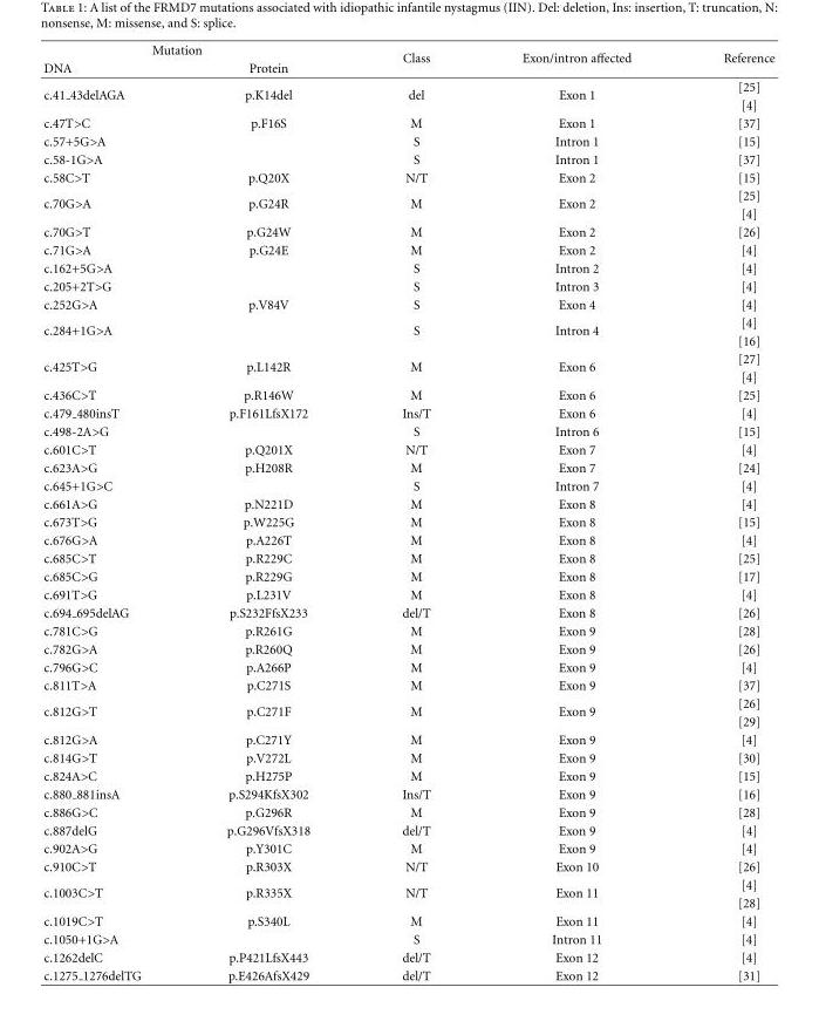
<table><thead><tr><td colspan="2">Mutation</td><td rowspan="2">Class</td><td rowspan="2">Exon/intron affected</td><td rowspan="2">Reference</td></tr><tr><td>DNA</td><td>Protein</td></tr></thead><tbody><tr><td rowspan="2">c.41 43delAGA</td><td rowspan="2">p.K14del</td><td rowspan="2">del</td><td rowspan="2">Exon 1</td><td>[25]</td></tr><tr><td>[4]</td></tr><tr><td>c.47T&gt;C</td><td>p.F16S</td><td>M</td><td>Exon 1</td><td>[37]</td></tr><tr><td>c.57+5G&gt;A</td><td></td><td>S</td><td>Intron 1</td><td>[15]</td></tr><tr><td>c.58-1G&gt;A</td><td></td><td>S</td><td>Intron 1</td><td>[37]</td></tr><tr><td>c.58C&gt;T</td><td>p.Q20X</td><td>N/T</td><td>Exon 2</td><td>[15]</td></tr><tr><td rowspan="2">c.70G&gt;A</td><td rowspan="2">p.G24R</td><td rowspan="2">M</td><td rowspan="2">Exon 2</td><td>[25]</td></tr><tr><td>[4]</td></tr><tr><td>c.70G&gt;T</td><td>p.G24W</td><td>M</td><td>Exon 2</td><td>[26]</td></tr><tr><td>c.71G&gt;A</td><td>p.G24E</td><td>M</td><td>Exon 2</td><td>[4]</td></tr><tr><td>c.162+5G&gt;A</td><td></td><td>S</td><td>Intron 2</td><td>[4]</td></tr><tr><td>c.205+2T&gt;G</td><td></td><td>S</td><td>Intron 3</td><td>[4]</td></tr><tr><td>c.252G&gt;A</td><td>p.V84V</td><td>S</td><td>Exon 4</td><td>[4]</td></tr><tr><td rowspan="2">c.284+1G&gt;A</td><td rowspan="2"></td><td rowspan="2">S</td><td rowspan="2">Intron 4</td><td>[4]</td></tr><tr><td>[16]</td></tr><tr><td rowspan="2">c.425T&gt;G</td><td rowspan="2">p.L142R</td><td rowspan="2">M</td><td rowspan="2">Exon 6</td><td>[27]</td></tr><tr><td>[4]</td></tr><tr><td>c.436C&gt;T</td><td>p.R146W</td><td>M</td><td>Exon 6</td><td>[25]</td></tr><tr><td>c.479 480insT</td><td>p.F161LfsX172</td><td>Ins/T</td><td>Exon 6</td><td>[4]</td></tr><tr><td>c.498-2A&gt;G</td><td></td><td>S</td><td>Intron 6</td><td>[15]</td></tr><tr><td>c.601C&gt;T</td><td>p.Q201X</td><td>N/T</td><td>Exon 7</td><td>[4]</td></tr><tr><td>c.623A&gt;G</td><td>p.H208R</td><td>M</td><td>Exon 7</td><td>[24]</td></tr><tr><td>c.645+1G&gt;C</td><td></td><td>S</td><td>Intron 7</td><td>[4]</td></tr><tr><td>c.661A&gt;G</td><td>p.N221D</td><td>M</td><td>Exon 8</td><td>[4]</td></tr><tr><td>c.673T&gt;G</td><td>p.W225G</td><td>M</td><td>Exon 8</td><td>[15]</td></tr><tr><td>c.676G&gt;A</td><td>p.A226T</td><td>M</td><td>Exon 8</td><td>[4]</td></tr><tr><td>c.685C&gt;T</td><td>p.R229C</td><td>M</td><td>Exon 8</td><td>[25]</td></tr><tr><td>c.685C&gt;G</td><td>p.R229G</td><td>M</td><td>Exon 8</td><td>[17]</td></tr><tr><td>c.691T&gt;G</td><td>p.L231V</td><td>M</td><td>Exon 8</td><td>[4]</td></tr><tr><td>c.694 695delAG</td><td>p.S232FfsX233</td><td>del/T</td><td>Exon 8</td><td>[26]</td></tr><tr><td>c.781C&gt;G</td><td>p.R261G</td><td>M</td><td>Exon 9</td><td>[28]</td></tr><tr><td>c.782G&gt;A</td><td>p.R260Q</td><td>M</td><td>Exon 9</td><td>[26]</td></tr><tr><td>c.796G&gt;C</td><td>p.A266P</td><td>M</td><td>Exon 9</td><td>[4]</td></tr><tr><td>c.811T&gt;A</td><td>p.C271S</td><td>M</td><td>Exon 9</td><td>[37]</td></tr><tr><td rowspan="2">c.812G&gt;T</td><td rowspan="2">p.C271F</td><td rowspan="2">M</td><td rowspan="2">Exon 9</td><td>[26]</td></tr><tr><td>[29]</td></tr><tr><td>c.812G&gt;A</td><td>p.C271Y</td><td>M</td><td>Exon 9</td><td>[4]</td></tr><tr><td>c.814G&gt;T</td><td>p.V272L</td><td>M</td><td>Exon 9</td><td>[30]</td></tr><tr><td>c.824A&gt;C</td><td>p.H275P</td><td>M</td><td>Exon 9</td><td>[15]</td></tr><tr><td>c.880 881insA</td><td>p.S294KfsX302</td><td>Ins/T</td><td>Exon 9</td><td>[16]</td></tr><tr><td>c.886G&gt;C</td><td>p.G296R</td><td>M</td><td>Exon 9</td><td>[28]</td></tr><tr><td>c.887delG</td><td>p.G296VfsX318</td><td>del/T</td><td>Exon 9</td><td>[4]</td></tr><tr><td>c.902A&gt;G</td><td>p.Y301C</td><td>M</td><td>Exon 9</td><td>[4]</td></tr><tr><td>c.910C&gt;T</td><td>p.R303X</td><td>N/T</td><td>Exon 10</td><td>[26]</td></tr><tr><td rowspan="2">c.1003C&gt;T</td><td rowspan="2">p.R335X</td><td rowspan="2">N/T</td><td rowspan="2">Exon 11</td><td>[4]</td></tr><tr><td>[28]</td></tr><tr><td>c.1019C&gt;T</td><td>p.S340L</td><td>M</td><td>Exon 11</td><td>[4]</td></tr><tr><td>c.1050+1G&gt;A</td><td></td><td>S</td><td>Intron 11</td><td>[4]</td></tr><tr><td>c.1262delC</td><td>p.P421LfsX443</td><td>del/T</td><td>Exon 12</td><td>[4]</td></tr><tr><td>c.1275 1276delTG</td><td>p.E426AfsX429</td><td>del/T</td><td>Exon 12</td><td>[31]</td></tr></tbody></table>